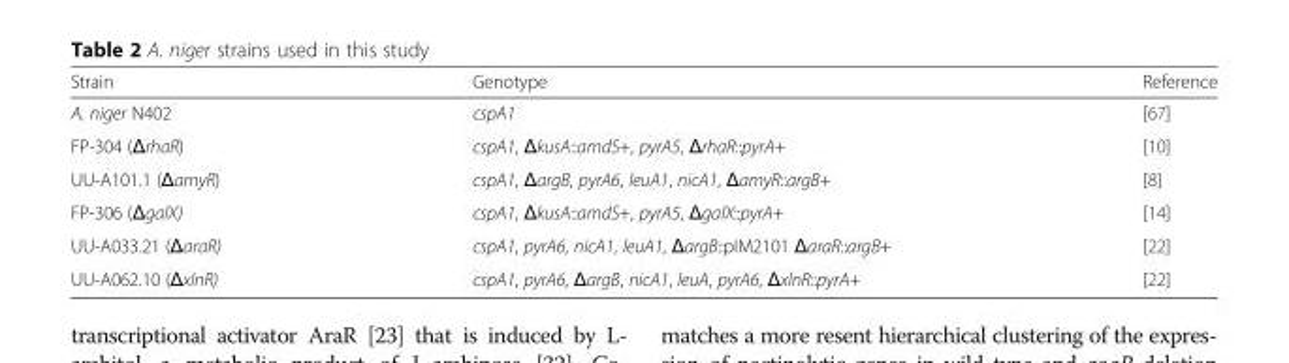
<table><thead><tr><td>Strain</td><td>Genotype</td><td>Reference</td></tr></thead><tbody><tr><td>A. niger N402</td><td>cspA1</td><td>[67]</td></tr><tr><td>FP-304 (ΔrhaR)</td><td>cspA1, ΔkusA::amdS+, pyrA5, ΔrhaR::pyrA+</td><td>[10]</td></tr><tr><td>UU-A101.1 (ΔamyR)</td><td>cspA1, ΔargB, pyrA6, leuA1, nicA1, ΔamyR::argB+</td><td>[8]</td></tr><tr><td>FP-306 (ΔgalX)</td><td>cspA1, ΔkusA::amdS+, pyrA5, ΔgalX::pyrA+</td><td>[14]</td></tr><tr><td>UU-A033.21 (ΔaraR)</td><td>cspA1, pyrA6, nicA1, leuA1, ΔargB::pIM2101 ΔaraR::argB+</td><td>[22]</td></tr><tr><td>UU-A062.10 (ΔxlnR)</td><td>cspA1, pyrA6, ΔargB, nicA1, leuA, pyrA6, ΔxlnR::pyrA+</td><td>[22]</td></tr></tbody></table>